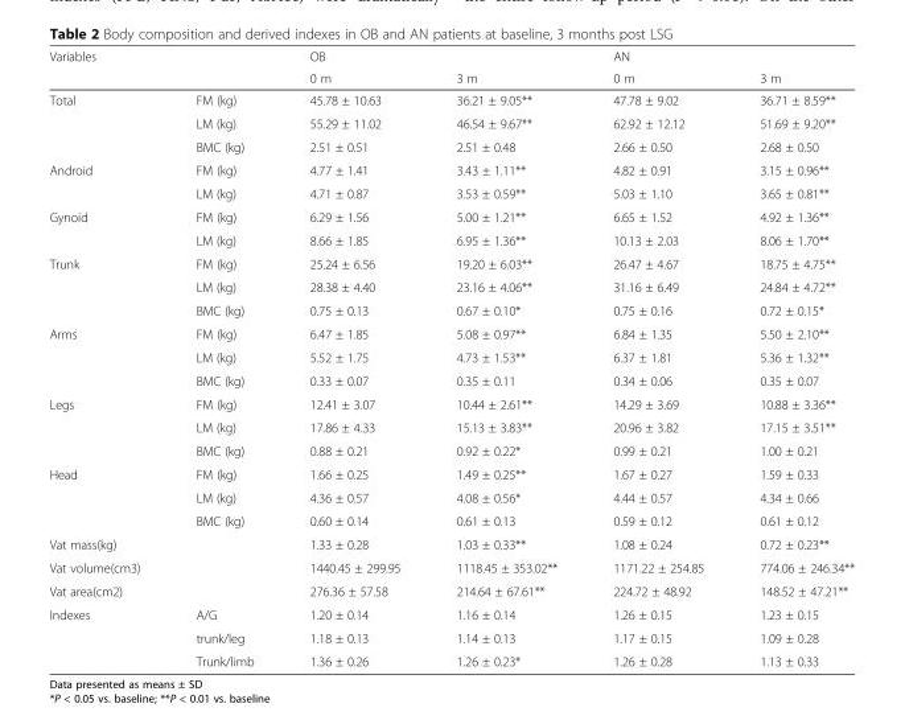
<table><thead><tr><td rowspan="2">Variables</td><td rowspan="2"></td><td rowspan="2">OB 0 m</td><td rowspan="2">3 m</td><td rowspan="2">AN 0 m</td><td rowspan="2">3 m</td></tr><tr></tr></thead><tbody><tr><td rowspan="3">Total</td><td>FM (kg)</td><td>45.78 ± 10.63</td><td>36.21 ± 9.05**</td><td>47.78 ± 9.02</td><td>36.71 ± 8.59**</td></tr><tr><td>LM (kg)</td><td>55.29 ± 11.02</td><td>46.54 ± 9.67**</td><td>62.92 ± 12.12</td><td>51.69 ± 9.20**</td></tr><tr><td>BMC (kg)</td><td>2.51 ± 0.51</td><td>2.51 ± 0.48</td><td>2.66 ± 0.50</td><td>2.68 ± 0.50</td></tr><tr><td rowspan="2">Android</td><td>FM (kg)</td><td>4.77 ± 1.41</td><td>3.43 ± 1.11**</td><td>4.82 ± 0.91</td><td>3.15 ± 0.96**</td></tr><tr><td>LM (kg)</td><td>4.71 ± 0.87</td><td>3.53 ± 0.59**</td><td>5.03 ± 1.10</td><td>3.65 ± 0.81**</td></tr><tr><td rowspan="2">Gynoid</td><td>FM (kg)</td><td>6.29 ± 1.56</td><td>5.00 ± 1.21**</td><td>6.65 ± 1.52</td><td>4.92 ± 1.36**</td></tr><tr><td>LM (kg)</td><td>8.66 ± 1.85</td><td>6.95 ± 1.36**</td><td>10.13 ± 2.03</td><td>8.06 ± 1.70**</td></tr><tr><td rowspan="3">Trunk</td><td>FM (kg)</td><td>25.24 ± 6.56</td><td>19.20 ± 6.03**</td><td>26.47 ± 4.67</td><td>18.75 ± 4.75**</td></tr><tr><td>LM (kg)</td><td>28.38 ± 4.40</td><td>23.16 ± 4.06**</td><td>31.16 ± 6.49</td><td>24.84 ± 4.72**</td></tr><tr><td>BMC (kg)</td><td>0.75 ± 0.13</td><td>0.67 ± 0.10*</td><td>0.75 ± 0.16</td><td>0.72 ± 0.15*</td></tr><tr><td rowspan="3">Arms</td><td>FM (kg)</td><td>6.47 ± 1.85</td><td>5.08 ± 0.97**</td><td>6.84 ± 1.35</td><td>5.50 ± 2.10**</td></tr><tr><td>LM (kg)</td><td>5.52 ± 1.75</td><td>4.73 ± 1.53**</td><td>6.37 ± 1.81</td><td>5.36 ± 1.32**</td></tr><tr><td>BMC (kg)</td><td>0.33 ± 0.07</td><td>0.35 ± 0.11</td><td>0.34 ± 0.06</td><td>0.35 ± 0.07</td></tr><tr><td rowspan="3">Legs</td><td>FM (kg)</td><td>12.41 ± 3.07</td><td>10.44 ± 2.61**</td><td>14.29 ± 3.69</td><td>10.88 ± 3.36**</td></tr><tr><td>LM (kg)</td><td>17.86 ± 4.33</td><td>15.13 ± 3.83**</td><td>20.96 ± 3.82</td><td>17.15 ± 3.51**</td></tr><tr><td>BMC (kg)</td><td>0.88 ± 0.21</td><td>0.92 ± 0.22*</td><td>0.99 ± 0.21</td><td>1.00 ± 0.21</td></tr><tr><td rowspan="3">Head</td><td>FM (kg)</td><td>1.66 ± 0.25</td><td>1.49 ± 0.25**</td><td>1.67 ± 0.27</td><td>1.59 ± 0.33</td></tr><tr><td>LM (kg)</td><td>4.36 ± 0.57</td><td>4.08 ± 0.56*</td><td>4.44 ± 0.57</td><td>4.34 ± 0.66</td></tr><tr><td>BMC (kg)</td><td>0.60 ± 0.14</td><td>0.61 ± 0.13</td><td>0.59 ± 0.12</td><td>0.61 ± 0.12</td></tr><tr><td>Vat mass(kg)</td><td></td><td>1.33 ± 0.28</td><td>1.03 ± 0.33**</td><td>1.08 ± 0.24</td><td>0.72 ± 0.23**</td></tr><tr><td>Vat volume(cm3)</td><td></td><td>1440.45 ± 299.95</td><td>1118.45 ± 353.02**</td><td>1171.22 ± 254.85</td><td>774.06 ± 246.34**</td></tr><tr><td>Vat area(cm2)</td><td></td><td>276.36 ± 57.58</td><td>214.64 ± 67.61**</td><td>224.72 ± 48.92</td><td>148.52 ± 47.21**</td></tr><tr><td rowspan="3">Indexes</td><td>A/G</td><td>1.20 ± 0.14</td><td>1.16 ± 0.14</td><td>1.26 ± 0.15</td><td>1.23 ± 0.15</td></tr><tr><td>trunk/leg</td><td>1.18 ± 0.13</td><td>1.14 ± 0.13</td><td>1.17 ± 0.15</td><td>1.09 ± 0.28</td></tr><tr><td>Trunk/limb</td><td>1.36 ± 0.26</td><td>1.26 ± 0.23*</td><td>1.26 ± 0.28</td><td>1.13 ± 0.33</td></tr></tbody></table>